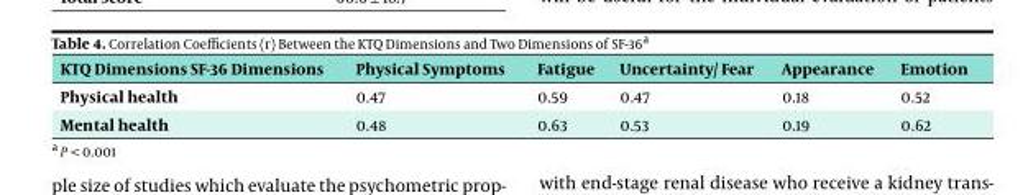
<table><thead><tr><td>KTQ Dimensions SF-36 Dimensions</td><td>Physical Symptoms</td><td>Fatigue</td><td>Uncertainty/ Fear</td><td>Appearance</td><td>Emotion</td></tr></thead><tbody><tr><td>Physical health</td><td>0.47</td><td>0.59</td><td>0.47</td><td>0.18</td><td>0.52</td></tr><tr><td>Mental health</td><td>0.48</td><td>0.63</td><td>0.53</td><td>0.19</td><td>0.62</td></tr></tbody></table>